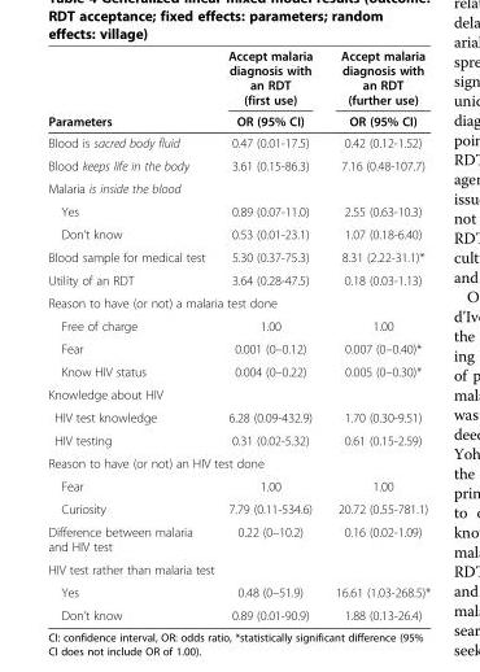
<table><thead><tr><td rowspan="2">Parameters</td><td rowspan="2">Accept malaria diagnosis with an RDT (first use) OR (95% CI)</td><td rowspan="2">Accept malaria diagnosis with an RDT (further use) OR (95% CI)</td></tr><tr></tr></thead><tbody><tr><td>Blood is sacred body fluid</td><td>0.47 (0.01-17.5)</td><td>0.42 (0.12-1.52)</td></tr><tr><td>Blood keeps life in the body</td><td>3.61 (0.15-86.3)</td><td>7.16 (0.48-107.7)</td></tr><tr><td colspan="3">Malaria is inside the blood</td></tr><tr><td>Yes</td><td>0.89 (0.07-11.0)</td><td>2.55 (0.63-10.3)</td></tr><tr><td>Don’t know</td><td>0.53 (0.01-23.1)</td><td>1.07 (0.18-6.40)</td></tr><tr><td>Blood sample for medical test</td><td>5.30 (0.37-75.3)</td><td>8.31 (2.22-31.1)*</td></tr><tr><td>Utility of an RDT</td><td>3.64 (0.28-47.5)</td><td>0.18 (0.03-1.13)</td></tr><tr><td colspan="3">Reason to have (or not) a malaria test done</td></tr><tr><td>Free of charge</td><td>1.00</td><td>1.00</td></tr><tr><td>Fear</td><td>0.001 (0–0.12)</td><td>0.007 (0–0.40)*</td></tr><tr><td>Know HIV status</td><td>0.004 (0–0.22)</td><td>0.005 (0–0.30)*</td></tr><tr><td colspan="3">Knowledge about HIV</td></tr><tr><td>HIV test knowledge</td><td>6.28 (0.09-432.9)</td><td>1.70 (0.30-9.51)</td></tr><tr><td>HIV testing</td><td>0.31 (0.02-5.32)</td><td>0.61 (0.15-2.59)</td></tr><tr><td colspan="3">Reason to have (or not) an HIV test done</td></tr><tr><td>Fear</td><td>1.00</td><td>1.00</td></tr><tr><td>Curiosity</td><td>7.79 (0.11-534.6)</td><td>20.72 (0.55-781.1)</td></tr><tr><td>Difference between malaria and HIV test</td><td>0.22 (0–10.2)</td><td>0.16 (0.02-1.09)</td></tr><tr><td colspan="3">HIV test rather than malaria test</td></tr><tr><td>Yes</td><td>0.48 (0–51.9)</td><td>16.61 (1.03-268.5)*</td></tr><tr><td>Don’t know</td><td>0.89 (0.01-90.9)</td><td>1.88 (0.13-26.4)</td></tr></tbody></table>